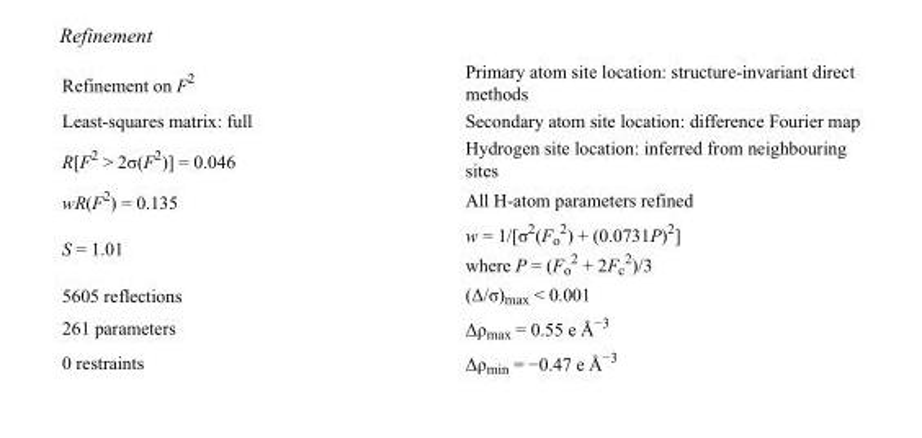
<table><tbody><tr><td>Refinement on F<sup>2</sup></td><td>Primary atom site location: structure-invariant direct methods</td></tr><tr><td>Least-squares matrix: full</td><td>Secondary atom site location: difference Fourier map</td></tr><tr><td>R[F<sup>2</sup> &gt; 2σ(F<sup>2</sup>)] = 0.046</td><td>Hydrogen site location: inferred from neighbouring sites</td></tr><tr><td>wR(F<sup>2</sup>) = 0.135</td><td>All H-atom parameters refined</td></tr><tr><td>S = 1.01</td><td>w = 1/[σ<sup>2</sup>(F<sub>o</sub> <sup>2</sup>) + (0.0731P)<sup>2</sup>] where P = (F<sub>o</sub> <sup>2</sup> + 2F<sub>c</sub> <sup>2</sup>)/3</td></tr><tr><td>5605 reflections</td><td>(Δ/σ)<sub>max</sub> &lt; 0.001</td></tr><tr><td>261 parameters</td><td>Δρ<sub>max</sub> = 0.55 e Å<sup>−3</sup></td></tr><tr><td>0 restraints</td><td>Δρ<sub>min</sub> = −0.47 e Å<sup>−3</sup></td></tr></tbody></table>